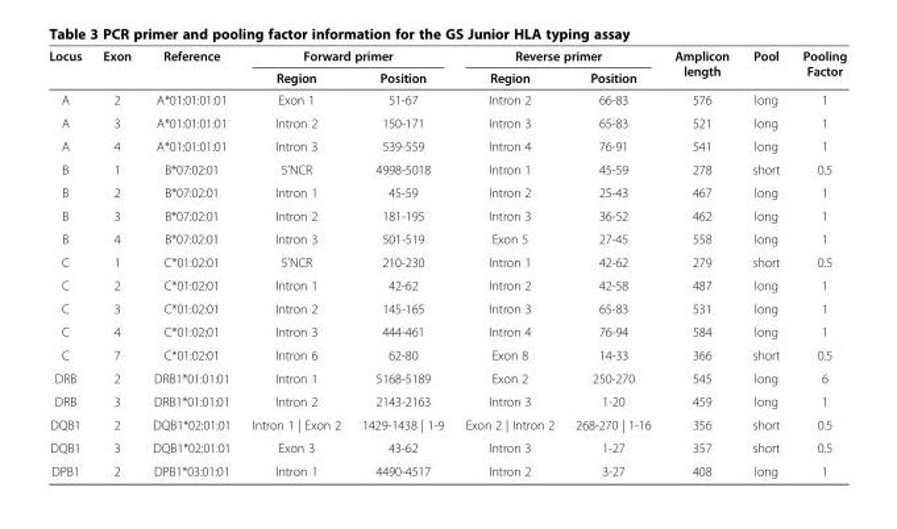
<table><thead><tr><td rowspan="2">Locus</td><td rowspan="2">Exon</td><td rowspan="2">Reference</td><td colspan="2">Forward primer</td><td colspan="2">Reverse primer</td><td rowspan="2">Amplicon length</td><td rowspan="2">Pool</td><td rowspan="2">Pooling Factor</td></tr><tr><td>Region</td><td>Position</td><td>Region</td><td>Position</td></tr></thead><tbody><tr><td>A</td><td>2</td><td>A*01:01:01:01</td><td>Exon 1</td><td>51-67</td><td>Intron 2</td><td>66-83</td><td>576</td><td>long</td><td>1</td></tr><tr><td>A</td><td>3</td><td>A*01:01:01:01</td><td>Intron 2</td><td>150-171</td><td>Intron 3</td><td>65-83</td><td>521</td><td>long</td><td>1</td></tr><tr><td>A</td><td>4</td><td>A*01:01:01:01</td><td>Intron 3</td><td>539-559</td><td>Intron 4</td><td>76-91</td><td>541</td><td>long</td><td>1</td></tr><tr><td>B</td><td>1</td><td>B*07:02:01</td><td>5’NCR</td><td>4998-5018</td><td>Intron 1</td><td>45-59</td><td>278</td><td>short</td><td>0.5</td></tr><tr><td>B</td><td>2</td><td>B*07:02:01</td><td>Intron 1</td><td>45-59</td><td>Intron 2</td><td>25-43</td><td>467</td><td>long</td><td>1</td></tr><tr><td>B</td><td>3</td><td>B*07:02:01</td><td>Intron 2</td><td>181-195</td><td>Intron 3</td><td>36-52</td><td>462</td><td>long</td><td>1</td></tr><tr><td>B</td><td>4</td><td>B*07:02:01</td><td>Intron 3</td><td>501-519</td><td>Exon 5</td><td>27-45</td><td>558</td><td>long</td><td>1</td></tr><tr><td>C</td><td>1</td><td>C*01:02:01</td><td>5’NCR</td><td>210-230</td><td>Intron 1</td><td>42-62</td><td>279</td><td>short</td><td>0.5</td></tr><tr><td>C</td><td>2</td><td>C*01:02:01</td><td>Intron 1</td><td>42-62</td><td>Intron 2</td><td>42-58</td><td>487</td><td>long</td><td>1</td></tr><tr><td>C</td><td>3</td><td>C*01:02:01</td><td>Intron 2</td><td>145-165</td><td>Intron 3</td><td>65-83</td><td>531</td><td>long</td><td>1</td></tr><tr><td>C</td><td>4</td><td>C*01:02:01</td><td>Intron 3</td><td>444-461</td><td>Intron 4</td><td>76-94</td><td>584</td><td>long</td><td>1</td></tr><tr><td>C</td><td>7</td><td>C*01:02:01</td><td>Intron 6</td><td>62-80</td><td>Exon 8</td><td>14-33</td><td>366</td><td>short</td><td>0.5</td></tr><tr><td>DRB</td><td>2</td><td>DRB1*01:01:01</td><td>Intron 1</td><td>5168-5189</td><td>Exon 2</td><td>250-270</td><td>545</td><td>long</td><td>6</td></tr><tr><td>DRB</td><td>3</td><td>DRB1*01:01:01</td><td>Intron 2</td><td>2143-2163</td><td>Intron 3</td><td>1-20</td><td>459</td><td>long</td><td>1</td></tr><tr><td>DQB1</td><td>2</td><td>DQB1*02:01:01</td><td>Intron 1 | Exon 2</td><td>1429-1438 | 1-9</td><td>Exon 2 | Intron 2</td><td>268-270 | 1-16</td><td>356</td><td>short</td><td>0.5</td></tr><tr><td>DQB1</td><td>3</td><td>DQB1*02:01:01</td><td>Exon 3</td><td>43-62</td><td>Intron 3</td><td>1-27</td><td>357</td><td>short</td><td>0.5</td></tr><tr><td>DPB1</td><td>2</td><td>DPB1*03:01:01</td><td>Intron 1</td><td>4490-4517</td><td>Intron 2</td><td>3-27</td><td>408</td><td>long</td><td>1</td></tr></tbody></table>